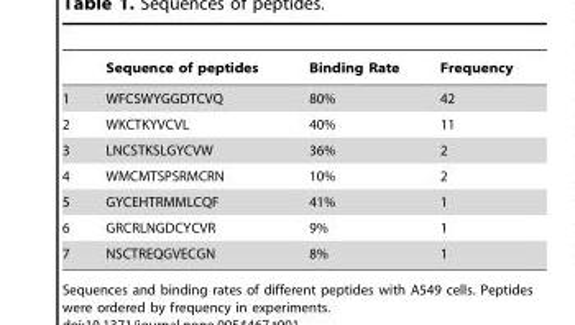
<table><thead><tr><td></td><td>Sequence of peptides</td><td>Binding Rate</td><td>Frequency</td></tr></thead><tbody><tr><td>1</td><td>WFCSWYGGDTCVQ</td><td>80%</td><td>42</td></tr><tr><td>2</td><td>WKCTKYVCVL</td><td>40%</td><td>11</td></tr><tr><td>3</td><td>LNCSTKSLGYCVW</td><td>36%</td><td>2</td></tr><tr><td>4</td><td>WMCMTSPSRMCRN</td><td>10%</td><td>2</td></tr><tr><td>5</td><td>GYCEHTRMMLCQF</td><td>41%</td><td>1</td></tr><tr><td>6</td><td>GRCRLNGDCYCVR</td><td>9%</td><td>1</td></tr><tr><td>7</td><td>NSCTREQGVECGN</td><td>8%</td><td>1</td></tr></tbody></table>